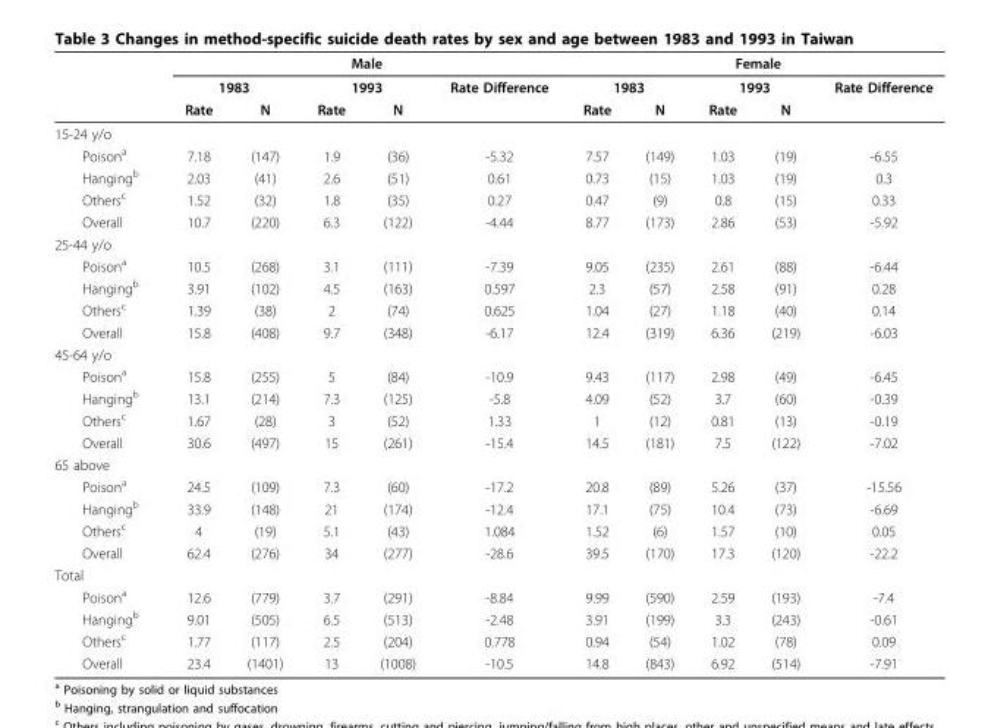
<table><thead><tr><td rowspan="3"></td><td colspan="5">Male</td><td colspan="5">Female</td></tr><tr><td colspan="2">1983</td><td colspan="2">1993</td><td rowspan="2">Rate Difference</td><td colspan="2">1983</td><td colspan="2">1993</td><td rowspan="2">Rate Difference</td></tr><tr><td>Rate</td><td>N</td><td>Rate</td><td>N</td><td>Rate</td><td>N</td><td>Rate</td><td>N</td></tr></thead><tbody><tr><td colspan="11">15-24 y/o</td></tr><tr><td>Poison<sup>a</sup></td><td>7.18</td><td>(147)</td><td>1.9</td><td>(36)</td><td>-5.32</td><td>7.57</td><td>(149)</td><td>1.03</td><td>(19)</td><td>-6.55</td></tr><tr><td>Hanging<sup>b</sup></td><td>2.03</td><td>(41)</td><td>2.6</td><td>(51)</td><td>0.61</td><td>0.73</td><td>(15)</td><td>1.03</td><td>(19)</td><td>0.3</td></tr><tr><td>Others<sup>c</sup></td><td>1.52</td><td>(32)</td><td>1.8</td><td>(35)</td><td>0.27</td><td>0.47</td><td>(9)</td><td>0.8</td><td>(15)</td><td>0.33</td></tr><tr><td>Overall</td><td>10.7</td><td>(220)</td><td>6.3</td><td>(122)</td><td>-4.44</td><td>8.77</td><td>(173)</td><td>2.86</td><td>(53)</td><td>-5.92</td></tr><tr><td colspan="11">25-44 y/o</td></tr><tr><td>Poison<sup>a</sup></td><td>10.5</td><td>(268)</td><td>3.1</td><td>(111)</td><td>-7.39</td><td>9.05</td><td>(235)</td><td>2.61</td><td>(88)</td><td>-6.44</td></tr><tr><td>Hanging<sup>b</sup></td><td>3.91</td><td>(102)</td><td>4.5</td><td>(163)</td><td>0.597</td><td>2.3</td><td>(57)</td><td>2.58</td><td>(91)</td><td>0.28</td></tr><tr><td>Others<sup>c</sup></td><td>1.39</td><td>(38)</td><td>2</td><td>(74)</td><td>0.625</td><td>1.04</td><td>(27)</td><td>1.18</td><td>(40)</td><td>0.14</td></tr><tr><td>Overall</td><td>15.8</td><td>(408)</td><td>9.7</td><td>(348)</td><td>-6.17</td><td>12.4</td><td>(319)</td><td>6.36</td><td>(219)</td><td>-6.03</td></tr><tr><td colspan="11">45-64 y/o</td></tr><tr><td>Poison<sup>a</sup></td><td>15.8</td><td>(255)</td><td>5</td><td>(84)</td><td>-10.9</td><td>9.43</td><td>(117)</td><td>2.98</td><td>(49)</td><td>-6.45</td></tr><tr><td>Hanging<sup>b</sup></td><td>13.1</td><td>(214)</td><td>7.3</td><td>(125)</td><td>-5.8</td><td>4.09</td><td>(52)</td><td>3.7</td><td>(60)</td><td>-0.39</td></tr><tr><td>Others<sup>c</sup></td><td>1.67</td><td>(28)</td><td>3</td><td>(52)</td><td>1.33</td><td>1</td><td>(12)</td><td>0.81</td><td>(13)</td><td>-0.19</td></tr><tr><td>Overall</td><td>30.6</td><td>(497)</td><td>15</td><td>(261)</td><td>-15.4</td><td>14.5</td><td>(181)</td><td>7.5</td><td>(122)</td><td>-7.02</td></tr><tr><td colspan="11">65 above</td></tr><tr><td>Poison<sup>a</sup></td><td>24.5</td><td>(109)</td><td>7.3</td><td>(60)</td><td>-17.2</td><td>20.8</td><td>(89)</td><td>5.26</td><td>(37)</td><td>-15.56</td></tr><tr><td>Hanging<sup>b</sup></td><td>33.9</td><td>(148)</td><td>21</td><td>(174)</td><td>-12.4</td><td>17.1</td><td>(75)</td><td>10.4</td><td>(73)</td><td>-6.69</td></tr><tr><td>Others<sup>c</sup></td><td>4</td><td>(19)</td><td>5.1</td><td>(43)</td><td>1.084</td><td>1.52</td><td>(6)</td><td>1.57</td><td>(10)</td><td>0.05</td></tr><tr><td>Overall</td><td>62.4</td><td>(276)</td><td>34</td><td>(277)</td><td>-28.6</td><td>39.5</td><td>(170)</td><td>17.3</td><td>(120)</td><td>-22.2</td></tr><tr><td colspan="11">Total</td></tr><tr><td>Poison<sup>a</sup></td><td>12.6</td><td>(779)</td><td>3.7</td><td>(291)</td><td>-8.84</td><td>9.99</td><td>(590)</td><td>2.59</td><td>(193)</td><td>-7.4</td></tr><tr><td>Hanging<sup>b</sup></td><td>9.01</td><td>(505)</td><td>6.5</td><td>(513)</td><td>-2.48</td><td>3.91</td><td>(199)</td><td>3.3</td><td>(243)</td><td>-0.61</td></tr><tr><td>Others<sup>c</sup></td><td>1.77</td><td>(117)</td><td>2.5</td><td>(204)</td><td>0.778</td><td>0.94</td><td>(54)</td><td>1.02</td><td>(78)</td><td>0.09</td></tr><tr><td>Overall</td><td>23.4</td><td>(1401)</td><td>13</td><td>(1008)</td><td>-10.5</td><td>14.8</td><td>(843)</td><td>6.92</td><td>(514)</td><td>-7.91</td></tr></tbody></table>